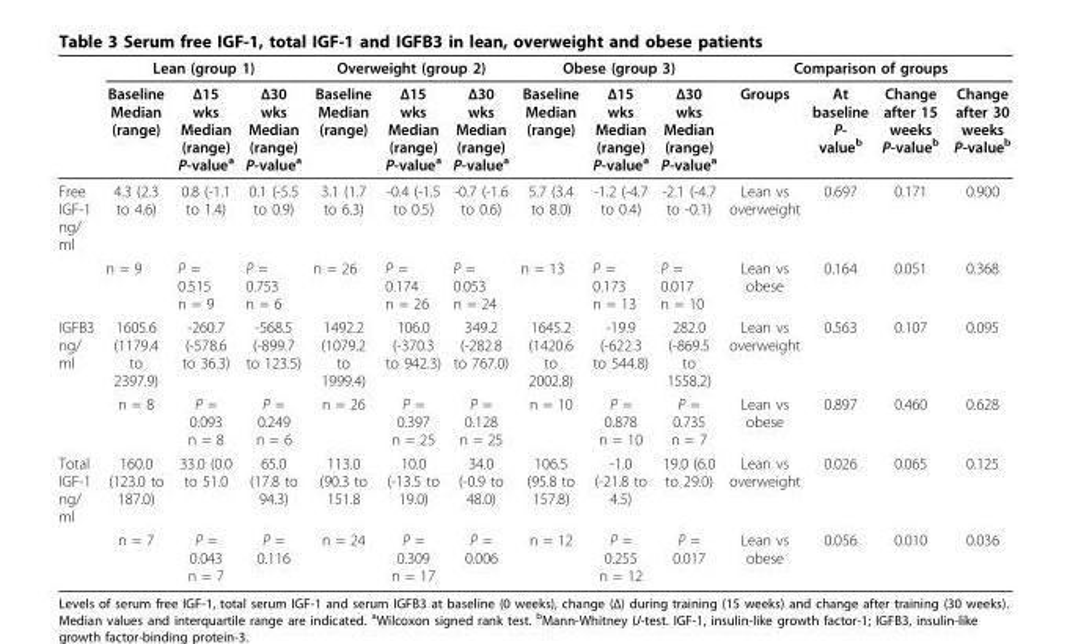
<table><thead><tr><td rowspan="2"></td><td colspan="3">Lean (group 1)</td><td colspan="3">Overweight (group 2)</td><td colspan="3">Obese (group 3)</td><td colspan="4">Comparison of groups</td></tr><tr><td>Baseline Median (range)</td><td>Δ15 wks Median (range) P-valuea</td><td>Δ30 wks Median (range) P-valuea</td><td>Baseline Median (range)</td><td>Δ15 wks Median (range) P-valuea</td><td>Δ30 wks Median (range) P-valuea</td><td>Baseline Median (range)</td><td>Δ15 wks Median (range) P-valuea</td><td>Δ30 wks Median (range) P-valuea</td><td>Groups</td><td>At baseline P- value<sup>b</sup></td><td>Change after 15 weeks P-value<sup>b</sup></td><td>Change after 30 weeks P-value<sup>b</sup></td></tr></thead><tbody><tr><td rowspan="2">Free IGF-1 ng/ ml</td><td>4.3 (2.3 to 4.6)</td><td>0.8 (-1.1 to 1.4)</td><td>0.1 (-5.5 to 0.9)</td><td>3.1 (1.7 to 6.3)</td><td>-0.4 (-1.5 to 0.5)</td><td>-0.7 (-1.6 to 0.6)</td><td>5.7 (3.4 to 8.0)</td><td>-1.2 (-4.7 to 0.4)</td><td>-2.1 (-4.7 to -0.1)</td><td>Lean vs overweight</td><td>0.697</td><td>0.171</td><td>0.900</td></tr><tr><td>n = 9</td><td>P = 0.515 n = 9</td><td>P = 0.753 n = 6</td><td>n = 26</td><td>P = 0.174 n = 26</td><td>P = 0.053 n = 24</td><td>n = 13</td><td>P = 0.173 n = 13</td><td>P = 0.017 n = 10</td><td>Lean vs obese</td><td>0.164</td><td>0.051</td><td>0.368</td></tr><tr><td rowspan="2">IGFB3 ng/ ml</td><td>1605.6 (1179.4 to 2397.9)</td><td>-260.7 (-578.6 to 36.3)</td><td>-568.5 (-899.7 to 123.5)</td><td>1492.2 (1079.2 to 1999.4)</td><td>106.0 (-370.3 to 942.3)</td><td>349.2 (-282.8 to 767.0)</td><td>1645.2 (1420.6 to 2002.8)</td><td>-19.9 (-622.3 to 544.8)</td><td>282.0 (-869.5 to 1558.2)</td><td>Lean vs overweight</td><td>0.563</td><td>0.107</td><td>0.095</td></tr><tr><td>n = 8</td><td>P = 0.093 n = 8</td><td>P = 0.249 n = 6</td><td>n = 26</td><td>P = 0.397 n = 25</td><td>P = 0.128 n = 25</td><td>n = 10</td><td>P = 0.878 n = 10</td><td>P = 0.735 n = 7</td><td>Lean vs obese</td><td>0.897</td><td>0.460</td><td>0.628</td></tr><tr><td rowspan="2">Total IGF-1 ng/ ml</td><td>160.0 (123.0 to 187.0)</td><td>33.0 (0.0 to 51.0</td><td>65.0 (17.8 to 94.3)</td><td>113.0 (90.3 to 151.8</td><td>10.0 (-13.5 to 19.0)</td><td>34.0 (-0.9 to 48.0)</td><td>106.5 (95.8 to 157.8)</td><td>-1.0 (-21.8 to 4.5)</td><td>19.0 (6.0 to 29.0)</td><td>Lean vs overweight</td><td>0.026</td><td>0.065</td><td>0.125</td></tr><tr><td>n = 7</td><td>P = 0.043 n = 7</td><td>P = 0.116</td><td>n = 24</td><td>P = 0.309 n = 17</td><td>P = 0.006</td><td>n = 12</td><td>P = 0.255 n = 12</td><td>P = 0.017</td><td>Lean vs obese</td><td>0.056</td><td>0.010</td><td>0.036</td></tr></tbody></table>